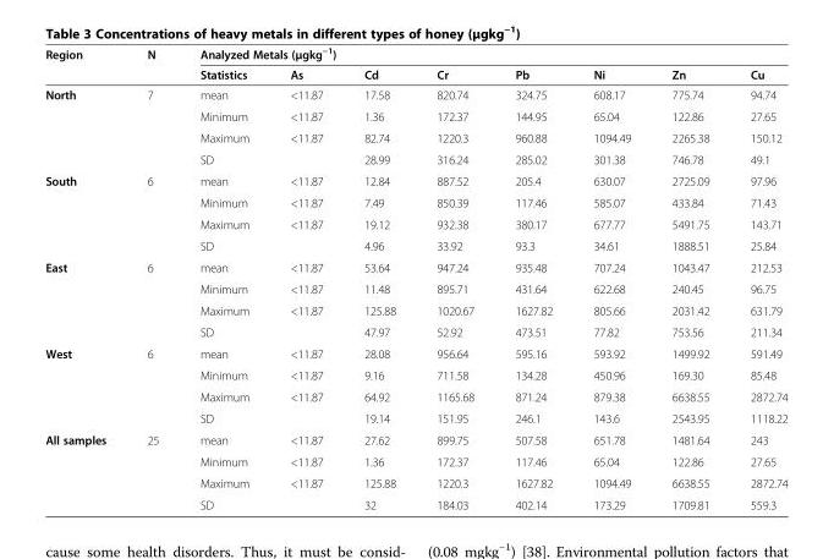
<table><thead><tr><td rowspan="2">Region</td><td rowspan="2">N</td><td colspan="8">Analyzed Metals (μgkg<sup>−1</sup>)</td></tr><tr><td>Statistics</td><td>As</td><td>Cd</td><td>Cr</td><td>Pb</td><td>Ni</td><td>Zn</td><td>Cu</td></tr></thead><tbody><tr><td rowspan="4">North</td><td rowspan="4">7</td><td>mean</td><td>&lt;11.87</td><td>17.58</td><td>820.74</td><td>324.75</td><td>608.17</td><td>775.74</td><td>94.74</td></tr><tr><td>Minimum</td><td>&lt;11.87</td><td>1.36</td><td>172.37</td><td>144.95</td><td>65.04</td><td>122.86</td><td>27.65</td></tr><tr><td>Maximum</td><td>&lt;11.87</td><td>82.74</td><td>1220.3</td><td>960.88</td><td>1094.49</td><td>2265.38</td><td>150.12</td></tr><tr><td>SD</td><td></td><td>28.99</td><td>316.24</td><td>285.02</td><td>301.38</td><td>746.78</td><td>49.1</td></tr><tr><td rowspan="4">South</td><td rowspan="4">6</td><td>mean</td><td>&lt;11.87</td><td>12.84</td><td>887.52</td><td>205.4</td><td>630.07</td><td>2725.09</td><td>97.96</td></tr><tr><td>Minimum</td><td>&lt;11.87</td><td>7.49</td><td>850.39</td><td>117.46</td><td>585.07</td><td>433.84</td><td>71.43</td></tr><tr><td>Maximum</td><td>&lt;11.87</td><td>19.12</td><td>932.38</td><td>380.17</td><td>677.77</td><td>5491.75</td><td>143.71</td></tr><tr><td>SD</td><td></td><td>4.96</td><td>33.92</td><td>93.3</td><td>34.61</td><td>1888.51</td><td>25.84</td></tr><tr><td rowspan="4">East</td><td rowspan="4">6</td><td>mean</td><td>&lt;11.87</td><td>53.64</td><td>947.24</td><td>935.48</td><td>707.24</td><td>1043.47</td><td>212.53</td></tr><tr><td>Minimum</td><td>&lt;11.87</td><td>11.48</td><td>895.71</td><td>431.64</td><td>622.68</td><td>240.45</td><td>96.75</td></tr><tr><td>Maximum</td><td>&lt;11.87</td><td>125.88</td><td>1020.67</td><td>1627.82</td><td>805.66</td><td>2031.42</td><td>631.79</td></tr><tr><td>SD</td><td></td><td>47.97</td><td>52.92</td><td>473.51</td><td>77.82</td><td>753.56</td><td>211.34</td></tr><tr><td rowspan="4">West</td><td rowspan="4">6</td><td>mean</td><td>&lt;11.87</td><td>28.08</td><td>956.64</td><td>595.16</td><td>593.92</td><td>1499.92</td><td>591.49</td></tr><tr><td>Minimum</td><td>&lt;11.87</td><td>9.16</td><td>711.58</td><td>134.28</td><td>450.96</td><td>169.30</td><td>85.48</td></tr><tr><td>Maximum</td><td>&lt;11.87</td><td>64.92</td><td>1165.68</td><td>871.24</td><td>879.38</td><td>6638.55</td><td>2872.74</td></tr><tr><td>SD</td><td></td><td>19.14</td><td>151.95</td><td>246.1</td><td>143.6</td><td>2543.95</td><td>1118.22</td></tr><tr><td rowspan="4">All samples</td><td rowspan="4">25</td><td>mean</td><td>&lt;11.87</td><td>27.62</td><td>899.75</td><td>507.58</td><td>651.78</td><td>1481.64</td><td>243</td></tr><tr><td>Minimum</td><td>&lt;11.87</td><td>1.36</td><td>172.37</td><td>117.46</td><td>65.04</td><td>122.86</td><td>27.65</td></tr><tr><td>Maximum</td><td>&lt;11.87</td><td>125.88</td><td>1220.3</td><td>1627.82</td><td>1094.49</td><td>6638.55</td><td>2872.74</td></tr><tr><td>SD</td><td></td><td>32</td><td>184.03</td><td>402.14</td><td>173.29</td><td>1709.81</td><td>559.3</td></tr></tbody></table>